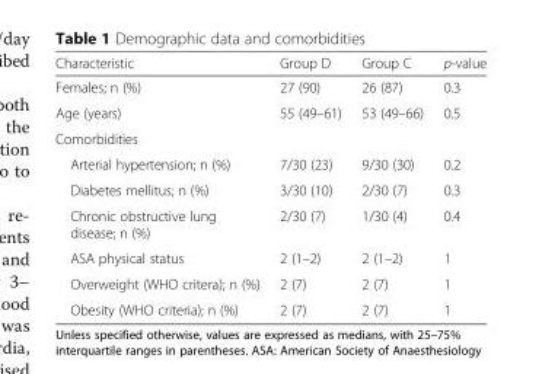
<table><thead><tr><td>Characteristic</td><td>Group D</td><td>Group C</td><td>p-value</td></tr></thead><tbody><tr><td>Females; n (%)</td><td>27 (90)</td><td>26 (87)</td><td>0.3</td></tr><tr><td>Age (years)</td><td>55 (49–61)</td><td>53 (49–66)</td><td>0.5</td></tr><tr><td colspan="4">Comorbidities</td></tr><tr><td>Arterial hypertension; n (%)</td><td>7/30 (23)</td><td>9/30 (30)</td><td>0.2</td></tr><tr><td>Diabetes mellitus; n (%)</td><td>3/30 (10)</td><td>2/30 (7)</td><td>0.3</td></tr><tr><td>Chronic obstructive lung disease; n (%)</td><td>2/30 (7)</td><td>1/30 (4)</td><td>0.4</td></tr><tr><td>ASA physical status</td><td>2 (1–2)</td><td>2 (1–2)</td><td>1</td></tr><tr><td>Overweight (WHO critera); n (%)</td><td>2 (7)</td><td>2 (7)</td><td>1</td></tr><tr><td>Obesity (WHO criteria); n (%)</td><td>2 (7)</td><td>2 (7)</td><td>1</td></tr></tbody></table>